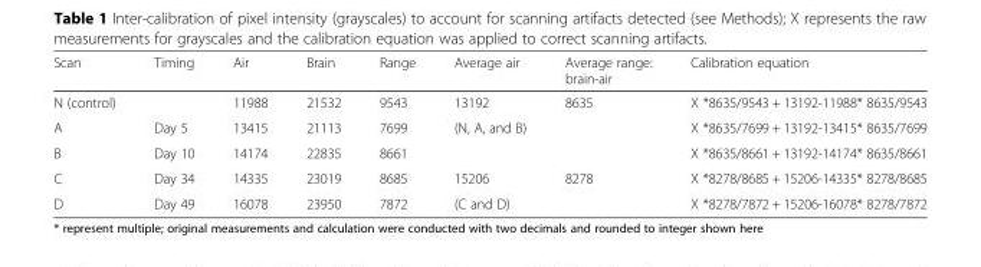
<table><thead><tr><td>Scan</td><td>Timing</td><td>Air</td><td>Brain</td><td>Range</td><td>Average air</td><td>Average range: brain-air</td><td>Calibration equation</td></tr></thead><tbody><tr><td>N (control)</td><td></td><td>11988</td><td>21532</td><td>9543</td><td>13192</td><td>8635</td><td>X *8635/9543 + 13192-11988* 8635/9543</td></tr><tr><td>A</td><td>Day 5</td><td>13415</td><td>21113</td><td>7699</td><td>(N, A, and B)</td><td></td><td>X *8635/7699 + 13192-13415* 8635/7699</td></tr><tr><td>B</td><td>Day 10</td><td>14174</td><td>22835</td><td>8661</td><td></td><td></td><td>X *8635/8661 + 13192-14174* 8635/8661</td></tr><tr><td>C</td><td>Day 34</td><td>14335</td><td>23019</td><td>8685</td><td>15206</td><td>8278</td><td>X *8278/8685 + 15206-14335* 8278/8685</td></tr><tr><td>D</td><td>Day 49</td><td>16078</td><td>23950</td><td>7872</td><td>(C and D)</td><td></td><td>X *8278/7872 + 15206-16078* 8278/7872</td></tr></tbody></table>